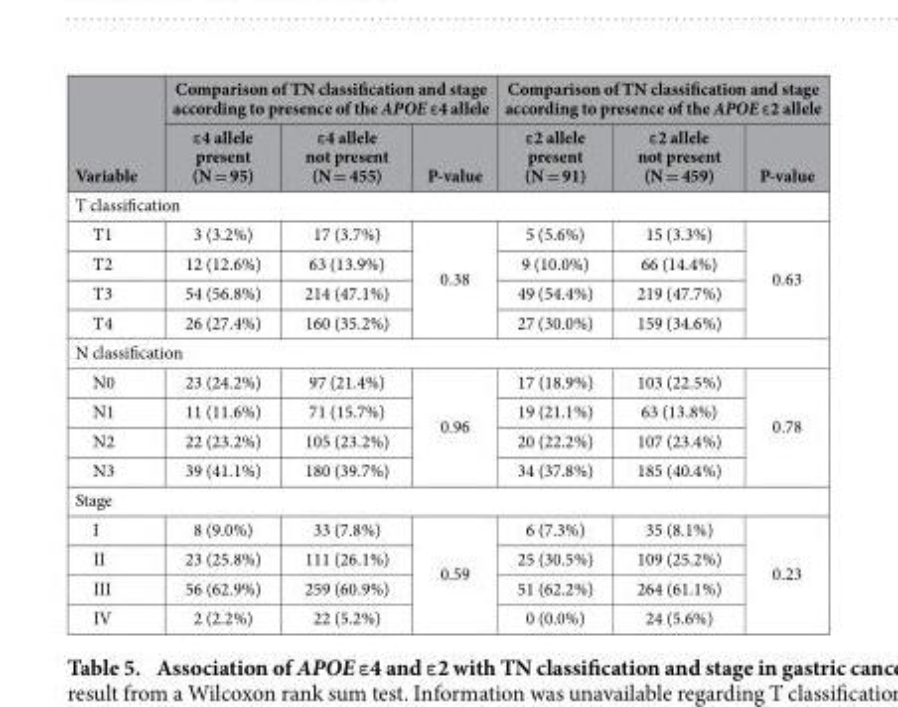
<table><thead><tr><td rowspan="2">Variable</td><td colspan="3">Comparison of TN classification and stage according to presence of the APOE ε4 allele</td><td colspan="3">Comparison of TN classification and stage according to presence of the APOE ε2 allele</td></tr><tr><td>ε4 allele present (N = 95)</td><td>ε4 allele not present (N = 455)</td><td>P-value</td><td>ε2 allele present (N = 91)</td><td>ε2 allele not present (N = 459)</td><td>P-value</td></tr></thead><tbody><tr><td colspan="7">T classification</td></tr><tr><td>T1</td><td>3 (3.2%)</td><td>17 (3.7%)</td><td rowspan="4">0.38</td><td>5 (5.6%)</td><td>15 (3.3%)</td><td rowspan="4">0.63</td></tr><tr><td>T2</td><td>12 (12.6%)</td><td>63 (13.9%)</td><td>9 (10.0%)</td><td>66 (14.4%)</td></tr><tr><td>T3</td><td>54 (56.8%)</td><td>214 (47.1%)</td><td>49 (54.4%)</td><td>219 (47.7%)</td></tr><tr><td>T4</td><td>26 (27.4%)</td><td>160 (35.2%)</td><td>27 (30.0%)</td><td>159 (34.6%)</td></tr><tr><td colspan="7">N classification</td></tr><tr><td>N0</td><td>23 (24.2%)</td><td>97 (21.4%)</td><td rowspan="4">0.96</td><td>17 (18.9%)</td><td>103 (22.5%)</td><td rowspan="4">0.78</td></tr><tr><td>N1</td><td>11 (11.6%)</td><td>71 (15.7%)</td><td>19 (21.1%)</td><td>63 (13.8%)</td></tr><tr><td>N2</td><td>22 (23.2%)</td><td>105 (23.2%)</td><td>20 (22.2%)</td><td>107 (23.4%)</td></tr><tr><td>N3</td><td>39 (41.1%)</td><td>180 (39.7%)</td><td>34 (37.8%)</td><td>185 (40.4%)</td></tr><tr><td colspan="7">Stage</td></tr><tr><td>I</td><td>8 (9.0%)</td><td>33 (7.8%)</td><td rowspan="4">0.59</td><td>6 (7.3%)</td><td>35 (8.1%)</td><td rowspan="4">0.23</td></tr><tr><td>II</td><td>23 (25.8%)</td><td>111 (26.1%)</td><td>25 (30.5%)</td><td>109 (25.2%)</td></tr><tr><td>III</td><td>56 (62.9%)</td><td>259 (60.9%)</td><td>51 (62.2%)</td><td>264 (61.1%)</td></tr><tr><td>IV</td><td>2 (2.2%)</td><td>22 (5.2%)</td><td>0 (0.0%)</td><td>24 (5.6%)</td></tr></tbody></table>